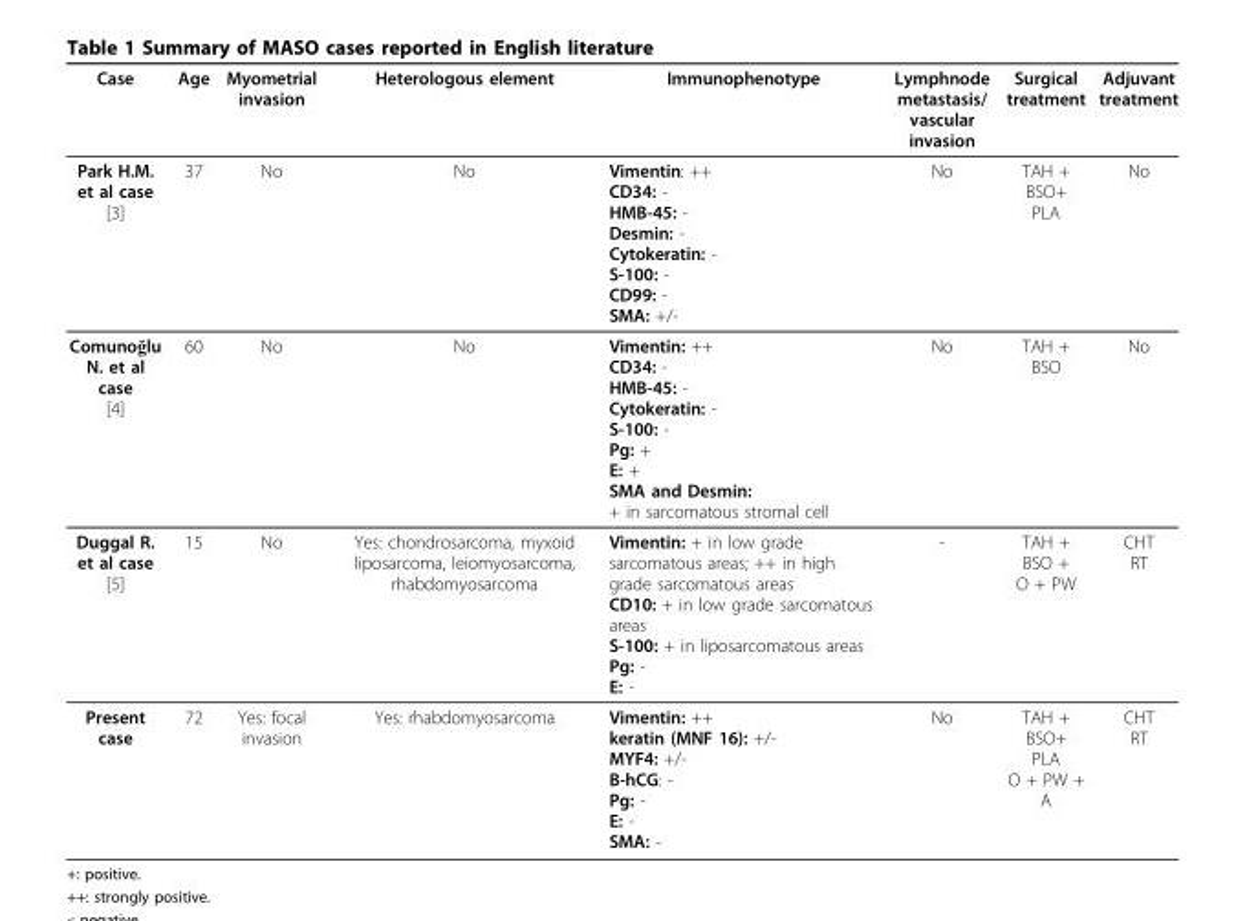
<table><thead><tr><td>Case</td><td>Age</td><td>Myometrial invasion</td><td>Heterologous element</td><td>Immunophenotype</td><td>Lymphnode metastasis/ vascular invasion</td><td>Surgical treatment</td><td>Adjuvant treatment</td></tr></thead><tbody><tr><td>Park H.M. et al case [3]</td><td>37</td><td>No</td><td>No</td><td>Vimentin: ++ CD34: - HMB-45: - Desmin: - Cytokeratin: - S-100: - CD99: - SMA: +/-</td><td>No</td><td>TAH + BSO+ PLA</td><td>No</td></tr><tr><td>Comunoğlu N. et al case [4]</td><td>60</td><td>No</td><td>No</td><td>Vimentin: ++ CD34: - HMB-45: - Cytokeratin: - S-100: - Pg: + E: + SMA and Desmin: + in sarcomatous stromal cell</td><td>No</td><td>TAH + BSO</td><td>No</td></tr><tr><td>Duggal R. et al case [5]</td><td>15</td><td>No</td><td>Yes: chondrosarcoma, myxoid liposarcoma, leiomyosarcoma, rhabdomyosarcoma</td><td>Vimentin: + in low grade sarcomatous areas; ++ in high grade sarcomatous areas CD10: + in low grade sarcomatous areas S-100: + in liposarcomatous areas Pg: - E: -</td><td>-</td><td>TAH + BSO + O + PW</td><td>CHT RT</td></tr><tr><td>Present case</td><td>72</td><td>Yes: focal invasion</td><td>Yes: rhabdomyosarcoma</td><td>Vimentin: ++ keratin (MNF 16): +/- MYF4: +/- B-hCG: - Pg: - E: - SMA: -</td><td>No</td><td>TAH + BSO+ PLA O + PW + A</td><td>CHT RT</td></tr></tbody></table>